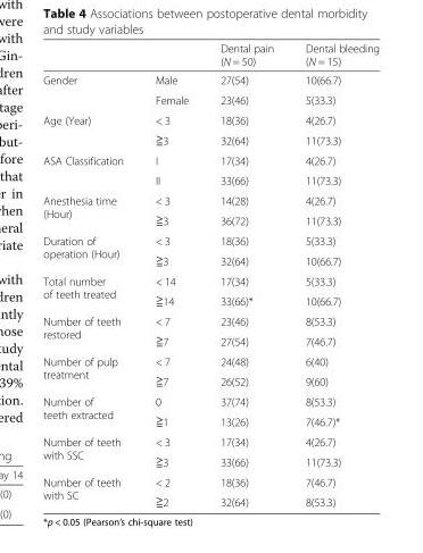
<table><thead><tr><td></td><td></td><td>Dental pain (N = 50)</td><td>Dental bleeding (N = 15)</td></tr></thead><tbody><tr><td rowspan="2">Gender</td><td>Male</td><td>27(54)</td><td>10(66.7)</td></tr><tr><td>Female</td><td>23(46)</td><td>5(33.3)</td></tr><tr><td rowspan="2">Age (Year)</td><td>&lt; 3</td><td>18(36)</td><td>4(26.7)</td></tr><tr><td>≧3</td><td>32(64)</td><td>11(73.3)</td></tr><tr><td rowspan="2">ASA Classification</td><td>I</td><td>17(34)</td><td>4(26.7)</td></tr><tr><td>II</td><td>33(66)</td><td>11(73.3)</td></tr><tr><td rowspan="2">Anesthesia time (Hour)</td><td>&lt; 3</td><td>14(28)</td><td>4(26.7)</td></tr><tr><td>≧3</td><td>36(72)</td><td>11(73.3)</td></tr><tr><td rowspan="2">Duration of operation (Hour)</td><td>&lt; 3</td><td>18(36)</td><td>5(33.3)</td></tr><tr><td>≧3</td><td>32(64)</td><td>10(66.7)</td></tr><tr><td rowspan="2">Total number of teeth treated</td><td>&lt; 14</td><td>17(34)</td><td>5(33.3)</td></tr><tr><td>≧14</td><td>33(66)*</td><td>10(66.7)</td></tr><tr><td rowspan="2">Number of teeth restored</td><td>&lt; 7</td><td>23(46)</td><td>8(53.3)</td></tr><tr><td>≧7</td><td>27(54)</td><td>7(46.7)</td></tr><tr><td rowspan="2">Number of pulp treatment</td><td>&lt; 7</td><td>24(48)</td><td>6(40)</td></tr><tr><td>≧7</td><td>26(52)</td><td>9(60)</td></tr><tr><td rowspan="2">Number of teeth extracted</td><td>0</td><td>37(74)</td><td>8(53.3)</td></tr><tr><td>≧1</td><td>13(26)</td><td>7(46.7)*</td></tr><tr><td rowspan="2">Number of teeth with SSC</td><td>&lt; 3</td><td>17(34)</td><td>4(26.7)</td></tr><tr><td>≧3</td><td>33(66)</td><td>11(73.3)</td></tr><tr><td rowspan="2">Number of teeth with SC</td><td>&lt; 2</td><td>18(36)</td><td>7(46.7)</td></tr><tr><td>≧2</td><td>32(64)</td><td>8(53.3)</td></tr></tbody></table>